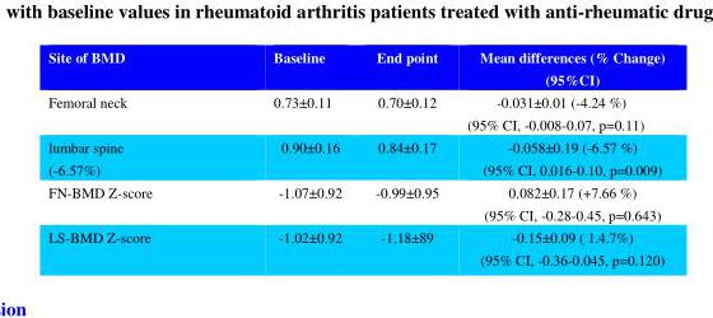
<table><thead><tr><td>Site of BMD</td><td>Baseline</td><td>End point</td><td>Mean differences (% Change) (95%CI)</td></tr></thead><tbody><tr><td>Femoral neck</td><td>0.73±0.11</td><td>0.70±0.12</td><td>-0.031±0.01 (-4.24 %) (95% CI, -0.008-0.07, p=0.11)</td></tr><tr><td>lumbar spine (-6.57%)</td><td>0.90±0.16</td><td>0.84±0.17</td><td>-0.058±0.19 (-6.57 %) (95% CI, 0.016-0.10, p=0.009)</td></tr><tr><td>FN-BMD Z-score</td><td>-1.07±0.92</td><td>-0.99±0.95</td><td>0.082±0.17 (+7.66 %) (95% CI, -0.28-0.45, p=0.643)</td></tr><tr><td>LS-BMD Z-score</td><td>-1.02±0.92</td><td>-1.18±89</td><td>-0.15±0.09 ( 1.4.7%) (95% CI, -0.36-0.045, p=0.120)</td></tr></tbody></table>